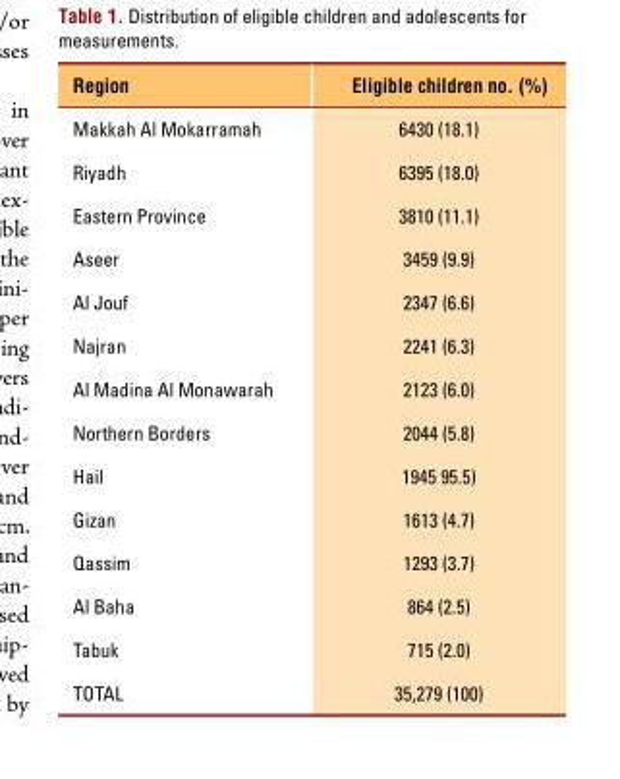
<table><thead><tr><td>Region</td><td>Eligible children no. (%)</td></tr></thead><tbody><tr><td>Makkah Al Mokarramah</td><td>6430 (18.1)</td></tr><tr><td>Riyadh</td><td>6395 (18.0)</td></tr><tr><td>Eastern Province</td><td>3810 (11.1)</td></tr><tr><td>Aseer</td><td>3459 (9.9)</td></tr><tr><td>Al Jouf</td><td>2347 (6.6)</td></tr><tr><td>Najran</td><td>2241 (6.3)</td></tr><tr><td>Al Madina Al Monawarah</td><td>2123 (6.0)</td></tr><tr><td>Northern Borders</td><td>2044 (5.8)</td></tr><tr><td>Hail</td><td>1945 95.5)</td></tr><tr><td>Gizan</td><td>1613 (4.7)</td></tr><tr><td>Qassim</td><td>1293 (3.7)</td></tr><tr><td>Al Baha</td><td>864 (2.5)</td></tr><tr><td>Tabuk</td><td>715 (2.0)</td></tr><tr><td>TOTAL</td><td>35,279 (100)</td></tr></tbody></table>